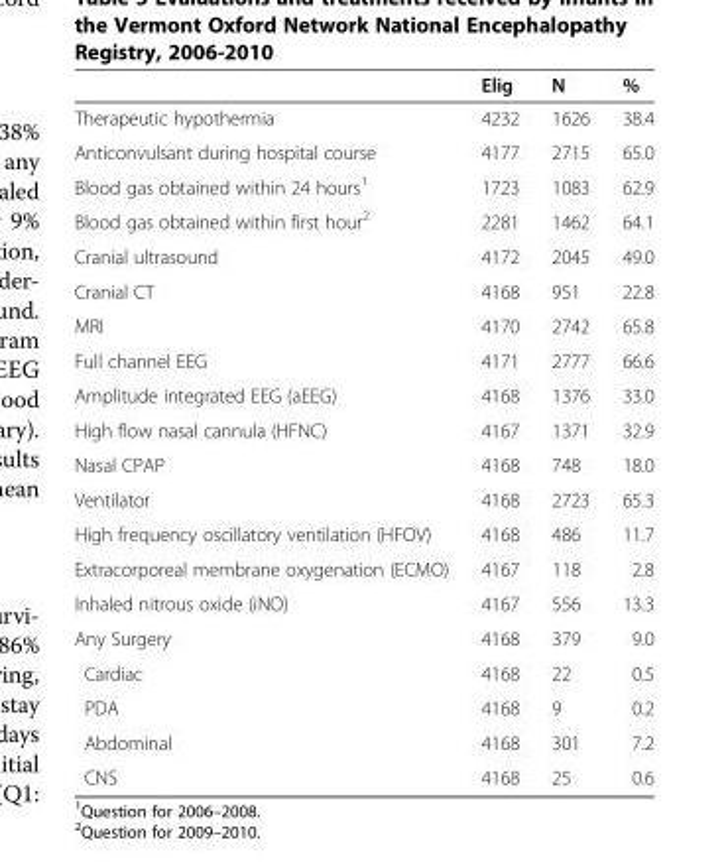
<table><thead><tr><td></td><td>Elig</td><td>N</td><td>%</td></tr></thead><tbody><tr><td>Therapeutic hypothermia</td><td>4232</td><td>1626</td><td>38.4</td></tr><tr><td>Anticonvulsant during hospital course</td><td>4177</td><td>2715</td><td>65.0</td></tr><tr><td>Blood gas obtained within 24 hours<sup>1</sup></td><td>1723</td><td>1083</td><td>62.9</td></tr><tr><td>Blood gas obtained within first hour<sup>2</sup></td><td>2281</td><td>1462</td><td>64.1</td></tr><tr><td>Cranial ultrasound</td><td>4172</td><td>2045</td><td>49.0</td></tr><tr><td>Cranial CT</td><td>4168</td><td>951</td><td>22.8</td></tr><tr><td>MRI</td><td>4170</td><td>2742</td><td>65.8</td></tr><tr><td>Full channel EEG</td><td>4171</td><td>2777</td><td>66.6</td></tr><tr><td>Amplitude integrated EEG (aEEG)</td><td>4168</td><td>1376</td><td>33.0</td></tr><tr><td>High flow nasal cannula (HFNC)</td><td>4167</td><td>1371</td><td>32.9</td></tr><tr><td>Nasal CPAP</td><td>4168</td><td>748</td><td>18.0</td></tr><tr><td>Ventilator</td><td>4168</td><td>2723</td><td>65.3</td></tr><tr><td>High frequency oscillatory ventilation (HFOV)</td><td>4168</td><td>486</td><td>11.7</td></tr><tr><td>Extracorporeal membrane oxygenation (ECMO)</td><td>4167</td><td>118</td><td>2.8</td></tr><tr><td>Inhaled nitrous oxide (iNO)</td><td>4167</td><td>556</td><td>13.3</td></tr><tr><td>Any Surgery</td><td>4168</td><td>379</td><td>9.0</td></tr><tr><td>Cardiac</td><td>4168</td><td>22</td><td>0.5</td></tr><tr><td>PDA</td><td>4168</td><td>9</td><td>0.2</td></tr><tr><td>Abdominal</td><td>4168</td><td>301</td><td>7.2</td></tr><tr><td>CNS</td><td>4168</td><td>25</td><td>0.6</td></tr></tbody></table>